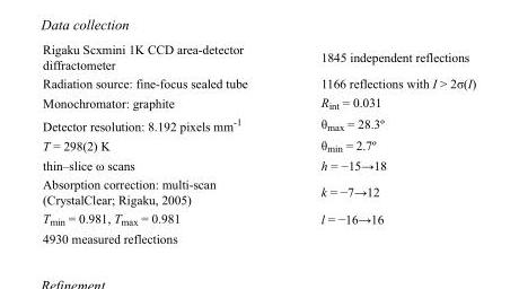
<table><tbody><tr><td>Rigaku Scxmini 1K CCD area-detector diffractometer</td><td>1845 independent reflections</td></tr><tr><td>Radiation source: fine-focus sealed tube</td><td>1166 reflections with I &gt; 2σ(I)</td></tr><tr><td>Monochromator: graphite</td><td>R<sub>int</sub> = 0.031</td></tr><tr><td>Detector resolution: 8.192 pixels mm<sup>-1</sup></td><td>θ<sub>max</sub> = 28.3º</td></tr><tr><td>T = 298(2) K</td><td>θ<sub>min</sub> = 2.7º</td></tr><tr><td>thin–slice ω scans</td><td>h = −15→18</td></tr><tr><td>Absorption correction: multi-scan (CrystalClear; Rigaku, 2005)</td><td>k = −7→12</td></tr><tr><td>T<sub>min</sub> = 0.981, T<sub>max</sub> = 0.981</td><td>l = −16→16</td></tr><tr><td>4930 measured reflections</td><td></td></tr></tbody></table>